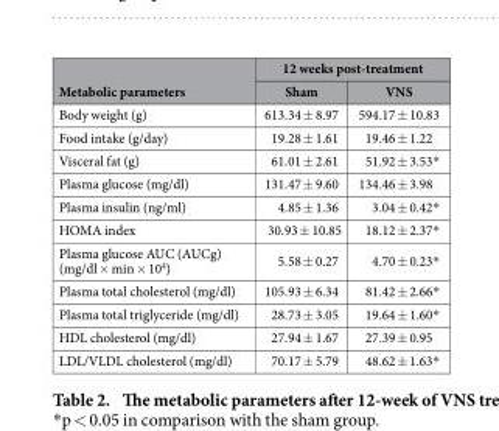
<table><thead><tr><td rowspan="2">Metabolic parameters</td><td colspan="2">12 weeks post-treatment</td></tr><tr><td>Sham</td><td>VNS</td></tr></thead><tbody><tr><td>Body weight (g)</td><td>613.34 ± 8.97</td><td>594.17 ± 10.83</td></tr><tr><td>Food intake (g/day)</td><td>19.28 ± 1.61</td><td>19.46 ± 1.22</td></tr><tr><td>Visceral fat (g)</td><td>61.01 ± 2.61</td><td>51.92 ± 3.53*</td></tr><tr><td>Plasma glucose (mg/dl)</td><td>131.47 ± 9.60</td><td>134.46 ± 3.98</td></tr><tr><td>Plasma insulin (ng/ml)</td><td>4.85 ± 1.36</td><td>3.04 ± 0.42*</td></tr><tr><td>HOMA index</td><td>30.93 ± 10.85</td><td>18.12 ± 2.37*</td></tr><tr><td>Plasma glucose AUC (AUCg) (mg/dl × min × 10<sup>4</sup>)</td><td>5.58 ± 0.27</td><td>4.70 ± 0.23*</td></tr><tr><td>Plasma total cholesterol (mg/dl)</td><td>105.93 ± 6.34</td><td>81.42 ± 2.66*</td></tr><tr><td>Plasma total triglyceride (mg/dl)</td><td>28.73 ± 3.05</td><td>19.64 ± 1.60*</td></tr><tr><td>HDL cholesterol (mg/dl)</td><td>27.94 ± 1.67</td><td>27.39 ± 0.95</td></tr><tr><td>LDL/VLDL cholesterol (mg/dl)</td><td>70.17 ± 5.79</td><td>48.62 ± 1.63*</td></tr></tbody></table>